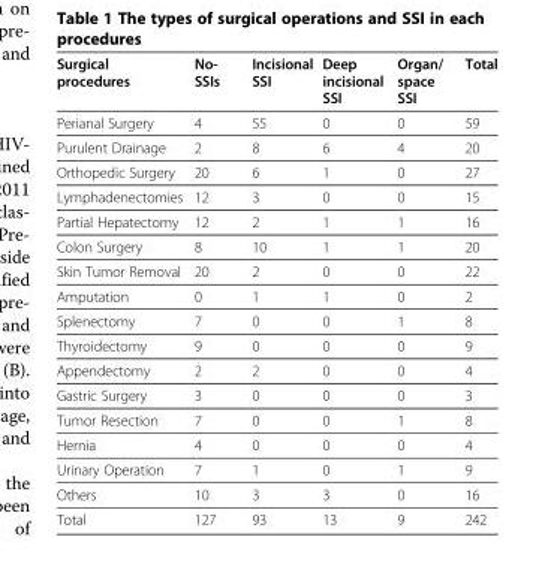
<table><thead><tr><td>Surgical procedures</td><td>No- SSIs</td><td>Incisional SSI</td><td>Deep incisional SSI</td><td>Organ/ space SSI</td><td>Total</td></tr></thead><tbody><tr><td>Perianal Surgery</td><td>4</td><td>55</td><td>0</td><td>0</td><td>59</td></tr><tr><td>Purulent Drainage</td><td>2</td><td>8</td><td>6</td><td>4</td><td>20</td></tr><tr><td>Orthopedic Surgery</td><td>20</td><td>6</td><td>1</td><td>0</td><td>27</td></tr><tr><td>Lymphadenectomies</td><td>12</td><td>3</td><td>0</td><td>0</td><td>15</td></tr><tr><td>Partial Hepatectomy</td><td>12</td><td>2</td><td>1</td><td>1</td><td>16</td></tr><tr><td>Colon Surgery</td><td>8</td><td>10</td><td>1</td><td>1</td><td>20</td></tr><tr><td>Skin Tumor Removal</td><td>20</td><td>2</td><td>0</td><td>0</td><td>22</td></tr><tr><td>Amputation</td><td>0</td><td>1</td><td>1</td><td>0</td><td>2</td></tr><tr><td>Splenectomy</td><td>7</td><td>0</td><td>0</td><td>1</td><td>8</td></tr><tr><td>Thyroidectomy</td><td>9</td><td>0</td><td>0</td><td>0</td><td>9</td></tr><tr><td>Appendectomy</td><td>2</td><td>2</td><td>0</td><td>0</td><td>4</td></tr><tr><td>Gastric Surgery</td><td>3</td><td>0</td><td>0</td><td>0</td><td>3</td></tr><tr><td>Tumor Resection</td><td>7</td><td>0</td><td>0</td><td>1</td><td>8</td></tr><tr><td>Hernia</td><td>4</td><td>0</td><td>0</td><td>0</td><td>4</td></tr><tr><td>Urinary Operation</td><td>7</td><td>1</td><td>0</td><td>1</td><td>9</td></tr><tr><td>Others</td><td>10</td><td>3</td><td>3</td><td>0</td><td>16</td></tr><tr><td>Total</td><td>127</td><td>93</td><td>13</td><td>9</td><td>242</td></tr></tbody></table>